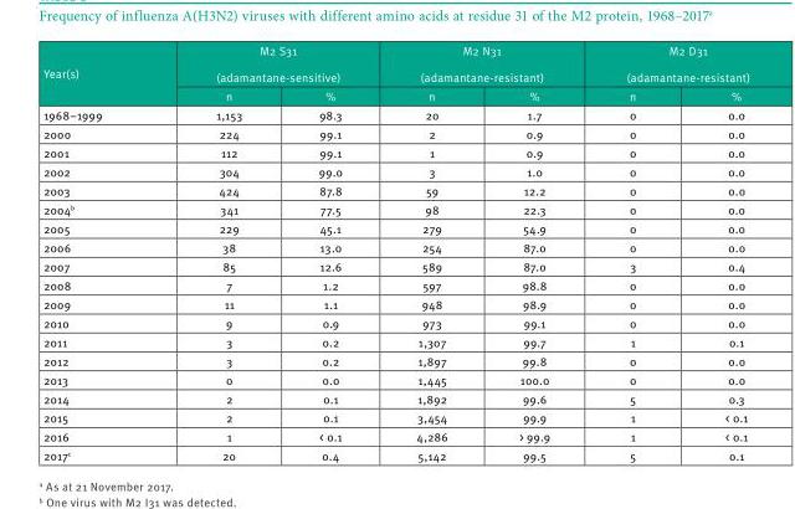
<table><thead><tr><td rowspan="2">Year(s)</td><td colspan="2">M2 S31 (adamantane-sensitive)</td><td colspan="2">M2 N31 (adamantane-resistant)</td><td colspan="2">M2 D31 (adamantane-resistant)</td></tr><tr><td>n</td><td>%</td><td>n</td><td>%</td><td>n</td><td>%</td></tr></thead><tbody><tr><td>1968–1999</td><td>1,153</td><td>98.3</td><td>20</td><td>1.7</td><td>0</td><td>0.0</td></tr><tr><td>2000</td><td>224</td><td>99.1</td><td>2</td><td>0.9</td><td>0</td><td>0.0</td></tr><tr><td>2001</td><td>112</td><td>99.1</td><td>1</td><td>0.9</td><td>0</td><td>0.0</td></tr><tr><td>2002</td><td>304</td><td>99.0</td><td>3</td><td>1.0</td><td>0</td><td>0.0</td></tr><tr><td>2003</td><td>424</td><td>87.8</td><td>59</td><td>12.2</td><td>0</td><td>0.0</td></tr><tr><td>2004<sup>b</sup></td><td>341</td><td>77.5</td><td>98</td><td>22.3</td><td>0</td><td>0.0</td></tr><tr><td>2005</td><td>229</td><td>45.1</td><td>279</td><td>54.9</td><td>0</td><td>0.0</td></tr><tr><td>2006</td><td>38</td><td>13.0</td><td>254</td><td>87.0</td><td>0</td><td>0.0</td></tr><tr><td>2007</td><td>85</td><td>12.6</td><td>589</td><td>87.0</td><td>3</td><td>0.4</td></tr><tr><td>2008</td><td>7</td><td>1.2</td><td>597</td><td>98.8</td><td>0</td><td>0.0</td></tr><tr><td>2009</td><td>11</td><td>1.1</td><td>948</td><td>98.9</td><td>0</td><td>0.0</td></tr><tr><td>2010</td><td>9</td><td>0.9</td><td>973</td><td>99.1</td><td>0</td><td>0.0</td></tr><tr><td>2011</td><td>3</td><td>0.2</td><td>1,307</td><td>99.7</td><td>1</td><td>0.1</td></tr><tr><td>2012</td><td>3</td><td>0.2</td><td>1,897</td><td>99.8</td><td>0</td><td>0.0</td></tr><tr><td>2013</td><td>0</td><td>0.0</td><td>1,445</td><td>100.0</td><td>0</td><td>0.0</td></tr><tr><td>2014</td><td>2</td><td>0.1</td><td>1,892</td><td>99.6</td><td>5</td><td>0.3</td></tr><tr><td>2015</td><td>2</td><td>0.1</td><td>3,454</td><td>99.9</td><td>1</td><td>&lt; 0.1</td></tr><tr><td>2016</td><td>1</td><td>&lt; 0.1</td><td>4,286</td><td>&gt; 99.9</td><td>1</td><td>&lt; 0.1</td></tr><tr><td>2017<sup>c</sup></td><td>20</td><td>0.4</td><td>5,142</td><td>99.5</td><td>5</td><td>0.1</td></tr></tbody></table>